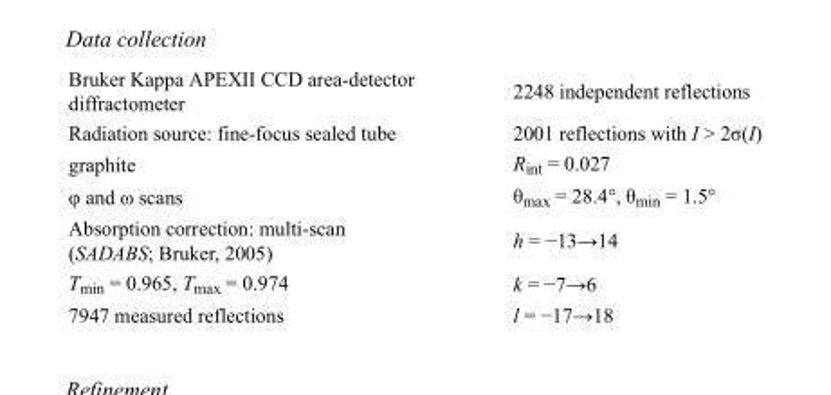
<table><tbody><tr><td>Bruker Kappa APEXII CCD area-detector diffractometer</td><td>2248 independent reflections</td></tr><tr><td>Radiation source: fine-focus sealed tube</td><td>2001 reflections with I &gt; 2σ(I)</td></tr><tr><td>graphite</td><td>R<sub>int</sub> = 0.027</td></tr><tr><td>φ and ω scans</td><td>θ<sub>max</sub> = 28.4°, θ<sub>min</sub> = 1.5°</td></tr><tr><td>Absorption correction: multi-scan (SADABS; Bruker, 2005)</td><td>h = −13→14</td></tr><tr><td>T<sub>min</sub> = 0.965, T<sub>max</sub> = 0.974</td><td>k = −7→6</td></tr><tr><td>7947 measured reflections</td><td>l = −17→18</td></tr></tbody></table>